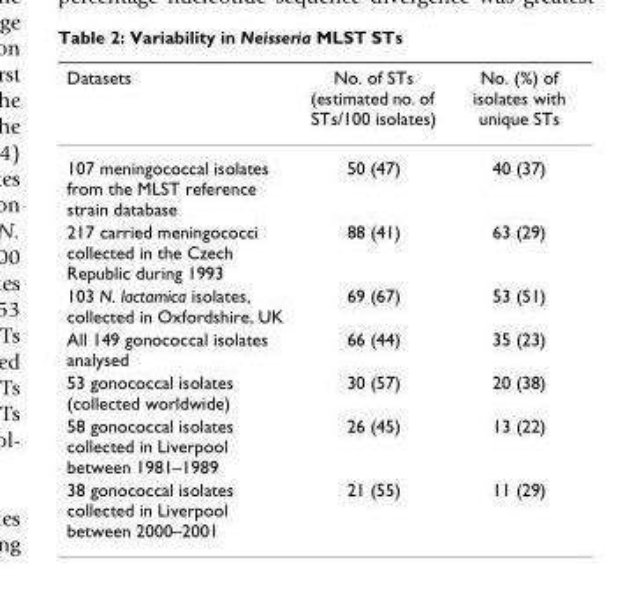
<table><thead><tr><td>Datasets</td><td>No. of STs (estimated no. of STs/100 isolates)</td><td>No. (%) of isolates with unique STs</td></tr></thead><tbody><tr><td>107 meningococcal isolates from the MLST reference strain database</td><td>50 (47)</td><td>40 (37)</td></tr><tr><td>217 carried meningococci collected in the Czech Republic during 1993</td><td>88 (41)</td><td>63 (29)</td></tr><tr><td>103 N. lactamica isolates, collected in Oxfordshire, UK</td><td>69 (67)</td><td>53 (51)</td></tr><tr><td>All 149 gonococcal isolates analysed</td><td>66 (44)</td><td>35 (23)</td></tr><tr><td>53 gonococcal isolates (collected worldwide)</td><td>30 (57)</td><td>20 (38)</td></tr><tr><td>58 gonococcal isolates collected in Liverpool between 1981–1989</td><td>26 (45)</td><td>13 (22)</td></tr><tr><td>38 gonococcal isolates collected in Liverpool between 2000–2001</td><td>21 (55)</td><td>11 (29)</td></tr></tbody></table>